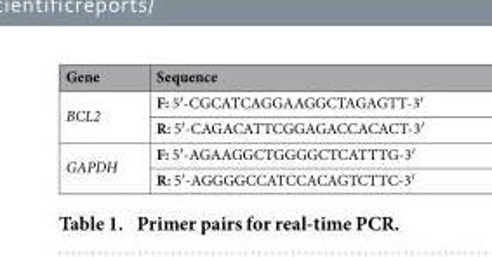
<table><thead><tr><td>Gene</td><td>Sequence</td></tr></thead><tbody><tr><td rowspan="2">BCL2</td><td>F: 5′ -CGCATCAGGAAGGCTAGAGTT-3′</td></tr><tr><td>R: 5′ -CAGACATTCGGAGACCACACT-3′</td></tr><tr><td rowspan="2">GAPDH</td><td>F: 5′ -AGAAGGCTGGGGCTCATTTG-3′</td></tr><tr><td>R: 5′ -AGGGGCCATCCACAGTCTTC-3′</td></tr></tbody></table>